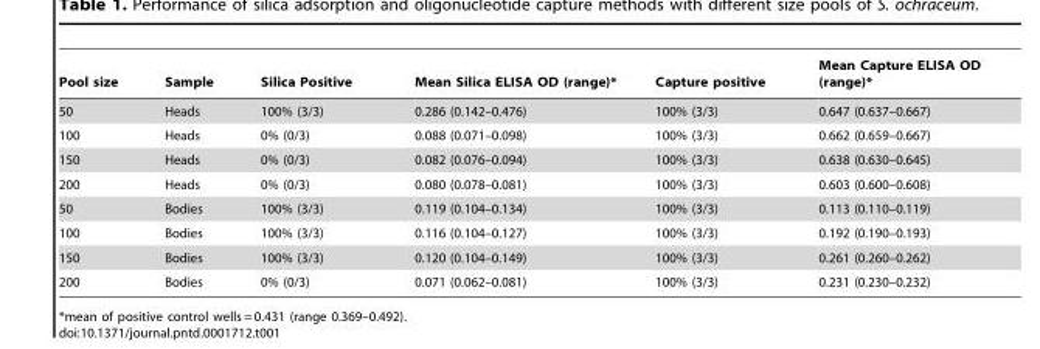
<table><thead><tr><td>Pool size</td><td>Sample</td><td>Silica Positive</td><td>Mean Silica ELISA OD (range)*</td><td>Capture positive</td><td>Mean Capture ELISA OD (range)*</td></tr></thead><tbody><tr><td>50</td><td>Heads</td><td>100% (3/3)</td><td>0.286 (0.142–0.476)</td><td>100% (3/3)</td><td>0.647 (0.637–0.667)</td></tr><tr><td>100</td><td>Heads</td><td>0% (0/3)</td><td>0.088 (0.071–0.098)</td><td>100% (3/3)</td><td>0.662 (0.659–0.667)</td></tr><tr><td>150</td><td>Heads</td><td>0% (0/3)</td><td>0.082 (0.076–0.094)</td><td>100% (3/3)</td><td>0.638 (0.630–0.645)</td></tr><tr><td>200</td><td>Heads</td><td>0% (0/3)</td><td>0.080 (0.078–0.081)</td><td>100% (3/3)</td><td>0.603 (0.600–0.608)</td></tr><tr><td>50</td><td>Bodies</td><td>100% (3/3)</td><td>0.119 (0.104–0.134)</td><td>100% (3/3)</td><td>0.113 (0.110–0.119)</td></tr><tr><td>100</td><td>Bodies</td><td>100% (3/3)</td><td>0.116 (0.104–0.127)</td><td>100% (3/3)</td><td>0.192 (0.190–0.193)</td></tr><tr><td>150</td><td>Bodies</td><td>100% (3/3)</td><td>0.120 (0.104–0.149)</td><td>100% (3/3)</td><td>0.261 (0.260–0.262)</td></tr><tr><td>200</td><td>Bodies</td><td>0% (0/3)</td><td>0.071 (0.062–0.081)</td><td>100% (3/3)</td><td>0.231 (0.230–0.232)</td></tr></tbody></table>